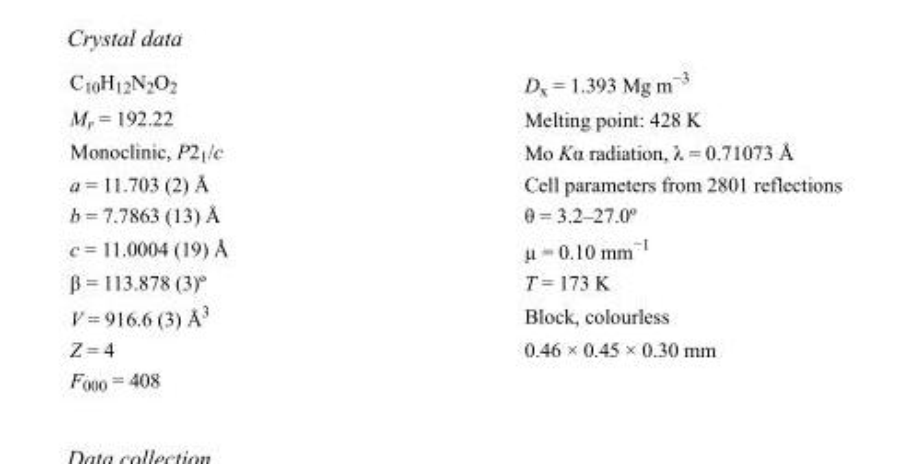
<table><tbody><tr><td>C<sub>10</sub>H<sub>12</sub>N<sub>2</sub>O<sub>2</sub></td><td>D<sub>x</sub> = 1.393 Mg m<sup>−3</sup></td></tr><tr><td>M<sub>r</sub> = 192.22</td><td>Melting point: 428 K</td></tr><tr><td>Monoclinic, P2<sub>1</sub>/c</td><td>Mo Kα radiation, λ = 0.71073 Å</td></tr><tr><td>a = 11.703 (2) Å</td><td>Cell parameters from 2801 reflections</td></tr><tr><td>b = 7.7863 (13) Å</td><td>θ = 3.2–27.0º</td></tr><tr><td>c = 11.0004 (19) Å</td><td>µ = 0.10 mm<sup>−1</sup></td></tr><tr><td>β = 113.878 (3)º</td><td>T = 173 K</td></tr><tr><td>V = 916.6 (3) Å<sup>3</sup></td><td>Block, colourless</td></tr><tr><td>Z = 4</td><td>0.46 × 0.45 × 0.30 mm</td></tr><tr><td>F000 = 408</td><td></td></tr></tbody></table>